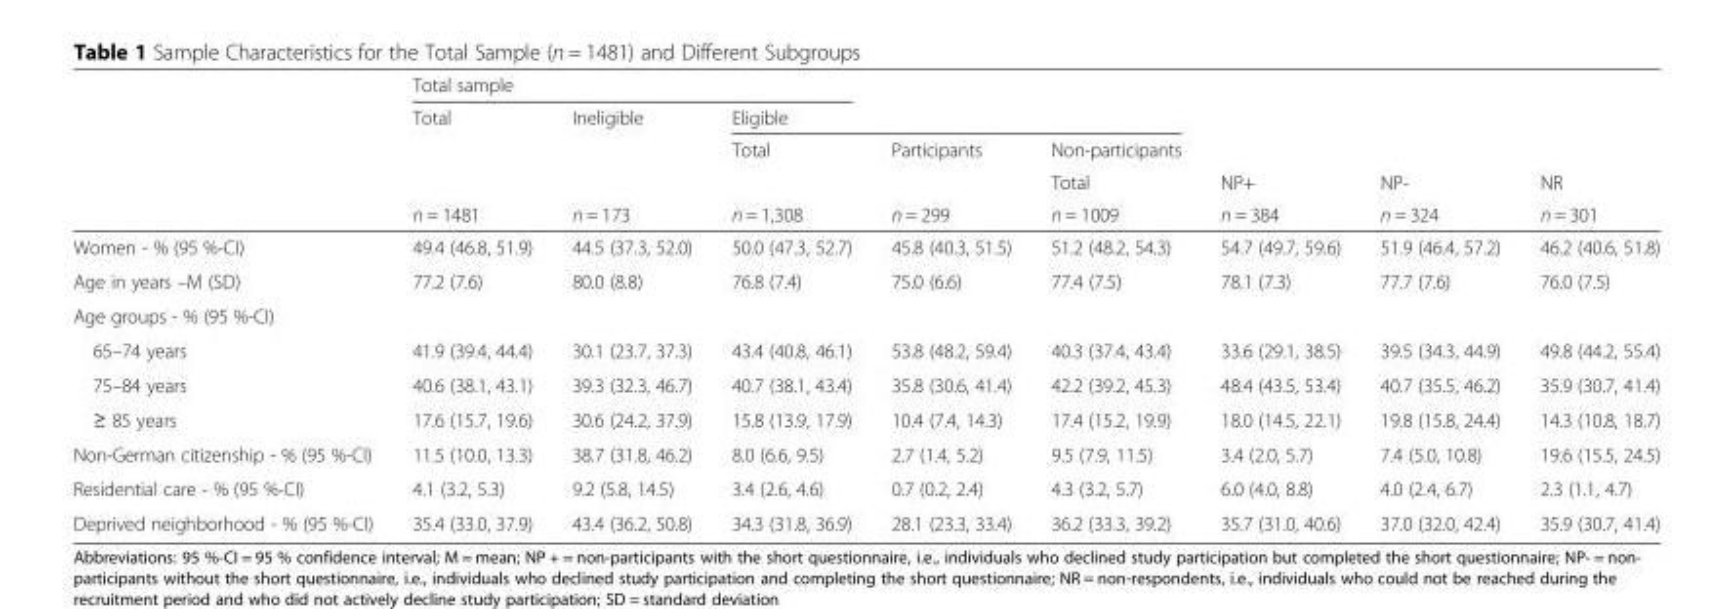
<table><thead><tr><td rowspan="5"></td><td colspan="3">Total sample</td><td></td><td></td><td rowspan="5">NP+ n = 384</td><td rowspan="5">NP- n = 324</td><td rowspan="5">NR n = 301</td></tr><tr><td rowspan="4">Total n = 1481</td><td rowspan="4">Ineligible n = 173</td><td colspan="3">Eligible</td></tr><tr><td rowspan="3">Total n = 1,308</td><td rowspan="3">Participants n = 299</td><td rowspan="3">Non-participants Total n = 1009</td></tr><tr></tr><tr></tr></thead><tbody><tr><td>Women - % (95 %-CI)</td><td>49.4 (46.8, 51.9)</td><td>44.5 (37.3, 52.0)</td><td>50.0 (47.3, 52.7)</td><td>45.8 (40.3, 51.5)</td><td>51.2 (48.2, 54.3)</td><td>54.7 (49.7, 59.6)</td><td>51.9 (46.4, 57.2)</td><td>46.2 (40.6, 51.8)</td></tr><tr><td>Age in years –M (SD)</td><td>77.2 (7.6)</td><td>80.0 (8.8)</td><td>76.8 (7.4)</td><td>75.0 (6.6)</td><td>77.4 (7.5)</td><td>78.1 (7.3)</td><td>77.7 (7.6)</td><td>76.0 (7.5)</td></tr><tr><td colspan="9">Age groups - % (95 %-CI)</td></tr><tr><td>65–74 years</td><td>41.9 (39.4, 44.4)</td><td>30.1 (23.7, 37.3)</td><td>43.4 (40.8, 46.1)</td><td>53.8 (48.2, 59.4)</td><td>40.3 (37.4, 43.4)</td><td>33.6 (29.1, 38.5)</td><td>39.5 (34.3, 44.9)</td><td>49.8 (44.2, 55.4)</td></tr><tr><td>75–84 years</td><td>40.6 (38.1, 43.1)</td><td>39.3 (32.3, 46.7)</td><td>40.7 (38.1, 43.4)</td><td>35.8 (30.6, 41.4)</td><td>42.2 (39.2, 45.3)</td><td>48.4 (43.5, 53.4)</td><td>40.7 (35.5, 46.2)</td><td>35.9 (30.7, 41.4)</td></tr><tr><td>≥ 85 years</td><td>17.6 (15.7, 19.6)</td><td>30.6 (24.2, 37.9)</td><td>15.8 (13.9, 17.9)</td><td>10.4 (7.4, 14.3)</td><td>17.4 (15.2, 19.9)</td><td>18.0 (14.5, 22.1)</td><td>19.8 (15.8, 24.4)</td><td>14.3 (10.8, 18.7)</td></tr><tr><td>Non-German citizenship - % (95 %-CI)</td><td>11.5 (10.0, 13.3)</td><td>38.7 (31.8, 46.2)</td><td>8.0 (6.6, 9.5)</td><td>2.7 (1.4, 5.2)</td><td>9.5 (7.9, 11.5)</td><td>3.4 (2.0, 5.7)</td><td>7.4 (5.0, 10.8)</td><td>19.6 (15.5, 24.5)</td></tr><tr><td>Residential care - % (95 %-CI)</td><td>4.1 (3.2, 5.3)</td><td>9.2 (5.8, 14.5)</td><td>3.4 (2.6, 4.6)</td><td>0.7 (0.2, 2.4)</td><td>4.3 (3.2, 5.7)</td><td>6.0 (4.0, 8.8)</td><td>4.0 (2.4, 6.7)</td><td>2.3 (1.1, 4.7)</td></tr><tr><td>Deprived neighborhood - % (95 %-CI)</td><td>35.4 (33.0, 37.9)</td><td>43.4 (36.2, 50.8)</td><td>34.3 (31.8, 36.9)</td><td>28.1 (23.3, 33.4)</td><td>36.2 (33.3, 39.2)</td><td>35.7 (31.0, 40.6)</td><td>37.0 (32.0, 42.4)</td><td>35.9 (30.7, 41.4)</td></tr></tbody></table>